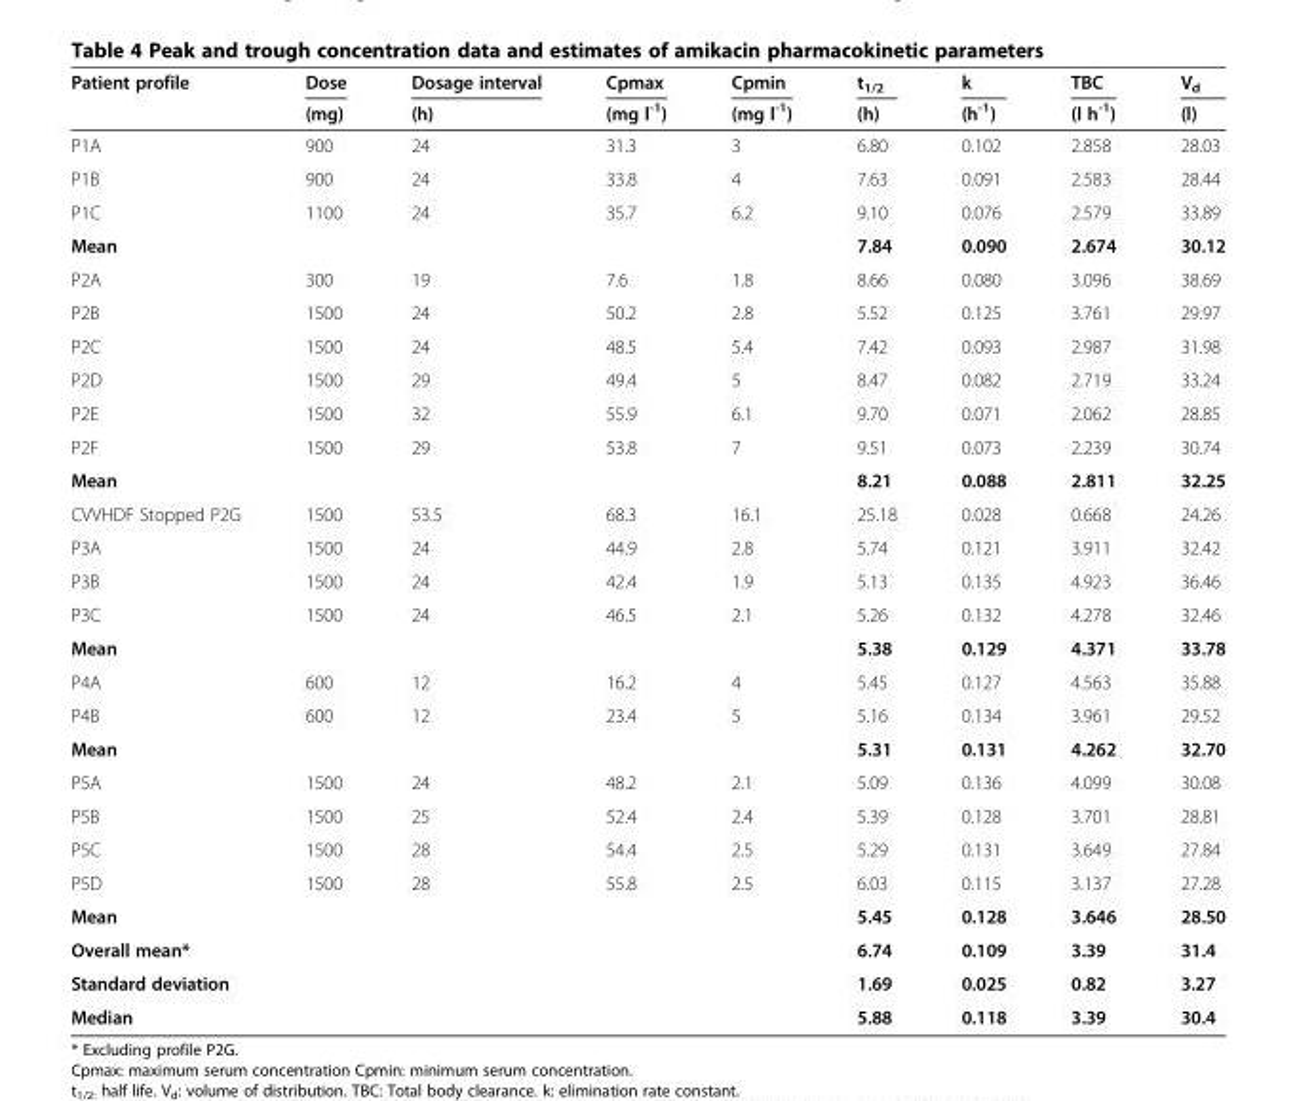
<table><thead><tr><td rowspan="2">Patient profile</td><td rowspan="2">Dose (mg)</td><td rowspan="2">Dosage interval (h)</td><td rowspan="2">Cpmax (mg l<sup>-1</sup>)</td><td rowspan="2">Cpmin (mg l<sup>-1</sup>)</td><td rowspan="2">t<sub>1/2</sub> (h)</td><td rowspan="2">k (h<sup>-1</sup>)</td><td rowspan="2">TBC (l h<sup>-1</sup>)</td><td rowspan="2">V<sub>d</sub> (l)</td></tr><tr></tr></thead><tbody><tr><td>P1A</td><td>900</td><td>24</td><td>31.3</td><td>3</td><td>6.80</td><td>0.102</td><td>2.858</td><td>28.03</td></tr><tr><td>P1B</td><td>900</td><td>24</td><td>33.8</td><td>4</td><td>7.63</td><td>0.091</td><td>2.583</td><td>28.44</td></tr><tr><td>P1C</td><td>1100</td><td>24</td><td>35.7</td><td>6.2</td><td>9.10</td><td>0.076</td><td>2.579</td><td>33.89</td></tr><tr><td>Mean</td><td></td><td></td><td></td><td></td><td>7.84</td><td>0.090</td><td>2.674</td><td>30.12</td></tr><tr><td>P2A</td><td>300</td><td>19</td><td>7.6</td><td>1.8</td><td>8.66</td><td>0.080</td><td>3.096</td><td>38.69</td></tr><tr><td>P2B</td><td>1500</td><td>24</td><td>50.2</td><td>2.8</td><td>5.52</td><td>0.125</td><td>3.761</td><td>29.97</td></tr><tr><td>P2C</td><td>1500</td><td>24</td><td>48.5</td><td>5.4</td><td>7.42</td><td>0.093</td><td>2.987</td><td>31.98</td></tr><tr><td>P2D</td><td>1500</td><td>29</td><td>49.4</td><td>5</td><td>8.47</td><td>0.082</td><td>2.719</td><td>33.24</td></tr><tr><td>P2E</td><td>1500</td><td>32</td><td>55.9</td><td>6.1</td><td>9.70</td><td>0.071</td><td>2.062</td><td>28.85</td></tr><tr><td>P2F</td><td>1500</td><td>29</td><td>53.8</td><td>7</td><td>9.51</td><td>0.073</td><td>2.239</td><td>30.74</td></tr><tr><td>Mean</td><td></td><td></td><td></td><td></td><td>8.21</td><td>0.088</td><td>2.811</td><td>32.25</td></tr><tr><td>CVVHDF Stopped P2G</td><td>1500</td><td>53.5</td><td>68.3</td><td>16.1</td><td>25.18</td><td>0.028</td><td>0.668</td><td>24.26</td></tr><tr><td>P3A</td><td>1500</td><td>24</td><td>44.9</td><td>2.8</td><td>5.74</td><td>0.121</td><td>3.911</td><td>32.42</td></tr><tr><td>P3B</td><td>1500</td><td>24</td><td>42.4</td><td>1.9</td><td>5.13</td><td>0.135</td><td>4.923</td><td>36.46</td></tr><tr><td>P3C</td><td>1500</td><td>24</td><td>46.5</td><td>2.1</td><td>5.26</td><td>0.132</td><td>4.278</td><td>32.46</td></tr><tr><td>Mean</td><td></td><td></td><td></td><td></td><td>5.38</td><td>0.129</td><td>4.371</td><td>33.78</td></tr><tr><td>P4A</td><td>600</td><td>12</td><td>16.2</td><td>4</td><td>5.45</td><td>0.127</td><td>4.563</td><td>35.88</td></tr><tr><td>P4B</td><td>600</td><td>12</td><td>23.4</td><td>5</td><td>5.16</td><td>0.134</td><td>3.961</td><td>29.52</td></tr><tr><td>Mean</td><td></td><td></td><td></td><td></td><td>5.31</td><td>0.131</td><td>4.262</td><td>32.70</td></tr><tr><td>P5A</td><td>1500</td><td>24</td><td>48.2</td><td>2.1</td><td>5.09</td><td>0.136</td><td>4.099</td><td>30.08</td></tr><tr><td>P5B</td><td>1500</td><td>25</td><td>52.4</td><td>2.4</td><td>5.39</td><td>0.128</td><td>3.701</td><td>28.81</td></tr><tr><td>P5C</td><td>1500</td><td>28</td><td>54.4</td><td>2.5</td><td>5.29</td><td>0.131</td><td>3.649</td><td>27.84</td></tr><tr><td>P5D</td><td>1500</td><td>28</td><td>55.8</td><td>2.5</td><td>6.03</td><td>0.115</td><td>3.137</td><td>27.28</td></tr><tr><td>Mean</td><td></td><td></td><td></td><td></td><td>5.45</td><td>0.128</td><td>3.646</td><td>28.50</td></tr><tr><td>Overall mean*</td><td></td><td></td><td></td><td></td><td>6.74</td><td>0.109</td><td>3.39</td><td>31.4</td></tr><tr><td>Standard deviation</td><td></td><td></td><td></td><td></td><td>1.69</td><td>0.025</td><td>0.82</td><td>3.27</td></tr><tr><td>Median</td><td></td><td></td><td></td><td></td><td>5.88</td><td>0.118</td><td>3.39</td><td>30.4</td></tr></tbody></table>